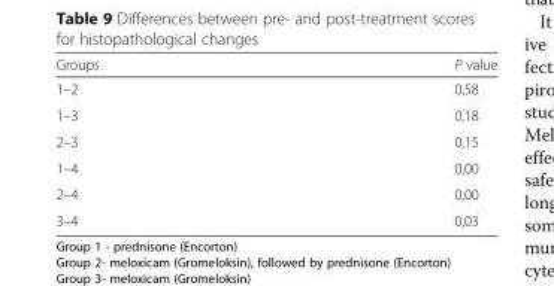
<table><thead><tr><td>Groups</td><td>P value</td></tr></thead><tbody><tr><td>1–2</td><td>0,58</td></tr><tr><td>1–3</td><td>0,18</td></tr><tr><td>2–3</td><td>0,15</td></tr><tr><td>1–4</td><td>0,00</td></tr><tr><td>2–4</td><td>0,00</td></tr><tr><td>3–4</td><td>0,03</td></tr></tbody></table>